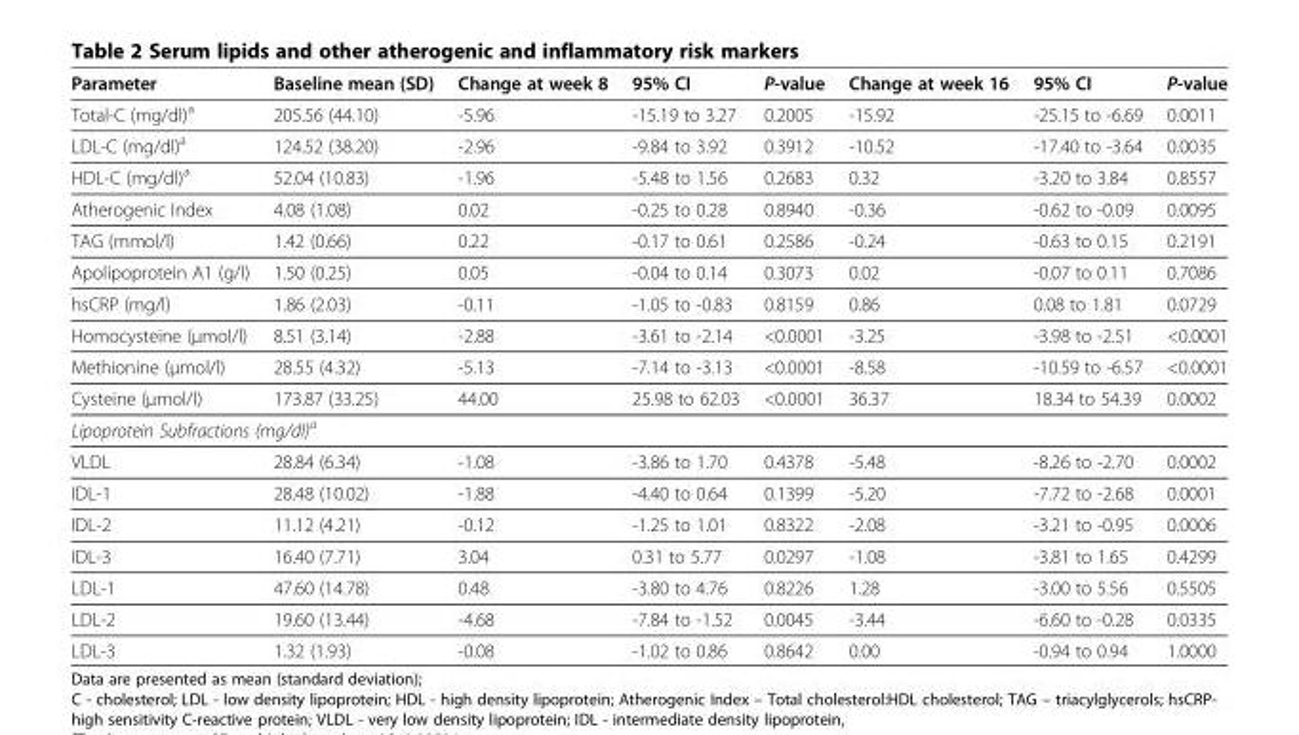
<table><thead><tr><td>Parameter</td><td>Baseline mean (SD)</td><td>Change at week 8</td><td>95% CI</td><td>P-value</td><td>Change at week 16</td><td>95% CI</td><td>P-value</td></tr></thead><tbody><tr><td>Total-C (mg/dl)<sup>a</sup></td><td>205.56 (44.10)</td><td>-5.96</td><td>-15.19 to 3.27</td><td>0.2005</td><td>-15.92</td><td>-25.15 to -6.69</td><td>0.0011</td></tr><tr><td>LDL-C (mg/dl)<sup>a</sup></td><td>124.52 (38.20)</td><td>-2.96</td><td>-9.84 to 3.92</td><td>0.3912</td><td>-10.52</td><td>-17.40 to -3.64</td><td>0.0035</td></tr><tr><td>HDL-C (mg/dl)<sup>a</sup></td><td>52.04 (10.83)</td><td>-1.96</td><td>-5.48 to 1.56</td><td>0.2683</td><td>0.32</td><td>-3.20 to 3.84</td><td>0.8557</td></tr><tr><td>Atherogenic Index</td><td>4.08 (1.08)</td><td>0.02</td><td>-0.25 to 0.28</td><td>0.8940</td><td>-0.36</td><td>-0.62 to -0.09</td><td>0.0095</td></tr><tr><td>TAG (mmol/l)</td><td>1.42 (0.66)</td><td>0.22</td><td>-0.17 to 0.61</td><td>0.2586</td><td>-0.24</td><td>-0.63 to 0.15</td><td>0.2191</td></tr><tr><td>Apolipoprotein A1 (g/l)</td><td>1.50 (0.25)</td><td>0.05</td><td>-0.04 to 0.14</td><td>0.3073</td><td>0.02</td><td>-0.07 to 0.11</td><td>0.7086</td></tr><tr><td>hsCRP (mg/l)</td><td>1.86 (2.03)</td><td>-0.11</td><td>-1.05 to -0.83</td><td>0.8159</td><td>0.86</td><td>0.08 to 1.81</td><td>0.0729</td></tr><tr><td>Homocysteine (μmol/l)</td><td>8.51 (3.14)</td><td>-2.88</td><td>-3.61 to -2.14</td><td>&lt;0.0001</td><td>-3.25</td><td>-3.98 to -2.51</td><td>&lt;0.0001</td></tr><tr><td>Methionine (μmol/l)</td><td>28.55 (4.32)</td><td>-5.13</td><td>-7.14 to -3.13</td><td>&lt;0.0001</td><td>-8.58</td><td>-10.59 to -6.57</td><td>&lt;0.0001</td></tr><tr><td>Cysteine (μmol/l)</td><td>173.87 (33.25)</td><td>44.00</td><td>25.98 to 62.03</td><td>&lt;0.0001</td><td>36.37</td><td>18.34 to 54.39</td><td>0.0002</td></tr><tr><td colspan="8">Lipoprotein Subfractions (mg/dl)<sup>a</sup></td></tr><tr><td>VLDL</td><td>28.84 (6.34)</td><td>-1.08</td><td>-3.86 to 1.70</td><td>0.4378</td><td>-5.48</td><td>-8.26 to -2.70</td><td>0.0002</td></tr><tr><td>IDL-1</td><td>28.48 (10.02)</td><td>-1.88</td><td>-4.40 to 0.64</td><td>0.1399</td><td>-5.20</td><td>-7.72 to -2.68</td><td>0.0001</td></tr><tr><td>IDL-2</td><td>11.12 (4.21)</td><td>-0.12</td><td>-1.25 to 1.01</td><td>0.8322</td><td>-2.08</td><td>-3.21 to -0.95</td><td>0.0006</td></tr><tr><td>IDL-3</td><td>16.40 (7.71)</td><td>3.04</td><td>0.31 to 5.77</td><td>0.0297</td><td>-1.08</td><td>-3.81 to 1.65</td><td>0.4299</td></tr><tr><td>LDL-1</td><td>47.60 (14.78)</td><td>0.48</td><td>-3.80 to 4.76</td><td>0.8226</td><td>1.28</td><td>-3.00 to 5.56</td><td>0.5505</td></tr><tr><td>LDL-2</td><td>19.60 (13.44)</td><td>-4.68</td><td>-7.84 to -1.52</td><td>0.0045</td><td>-3.44</td><td>-6.60 to -0.28</td><td>0.0335</td></tr><tr><td>LDL-3</td><td>1.32 (1.93)</td><td>-0.08</td><td>-1.02 to 0.86</td><td>0.8642</td><td>0.00</td><td>-0.94 to 0.94</td><td>1.0000</td></tr></tbody></table>